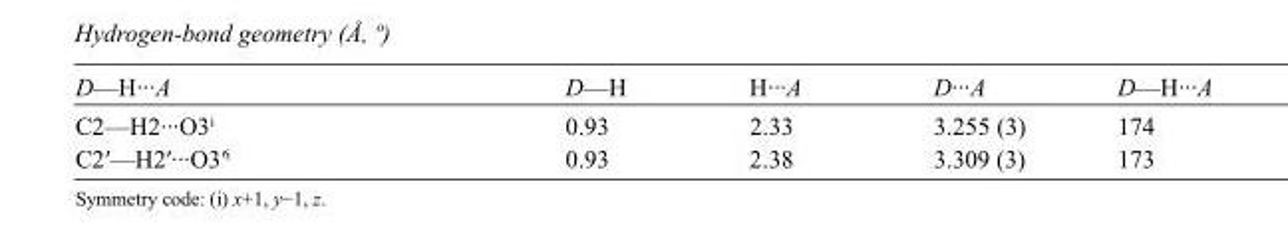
<table><tbody><tr><td>D—H···A</td><td>D—H</td><td>H···A</td><td>D···A</td><td>D—H···A</td></tr><tr><td>C2—H2···O3<sup>i</sup></td><td>0.93</td><td>2.33</td><td>3.255 (3)</td><td>174</td></tr><tr><td>C2′—H2′···O3′<sup>i</sup></td><td>0.93</td><td>2.38</td><td>3.309 (3)</td><td>173</td></tr></tbody></table>